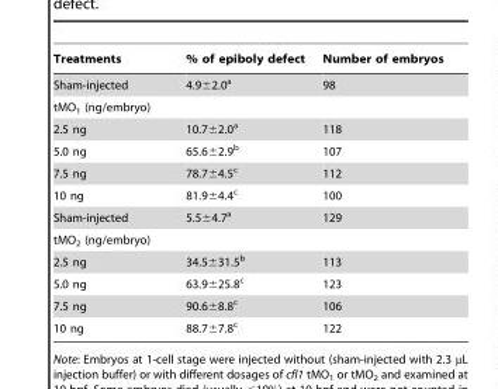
<table><thead><tr><td>Treatments</td><td>% of epiboly defect</td><td>Number of embryos</td></tr></thead><tbody><tr><td>Sham-injected</td><td>4.9±2.0<sup>a</sup></td><td>98</td></tr><tr><td colspan="3">tMO<sub>1</sub> (ng/embryo)</td></tr><tr><td>2.5 ng</td><td>10.7±2.0<sup>a</sup></td><td>118</td></tr><tr><td>5.0 ng</td><td>65.6±2.9<sup>b</sup></td><td>107</td></tr><tr><td>7.5 ng</td><td>78.7±4.5<sup>c</sup></td><td>112</td></tr><tr><td>10 ng</td><td>81.9±4.4<sup>c</sup></td><td>100</td></tr><tr><td>Sham-injected</td><td>5.5±4.7<sup>a</sup></td><td>129</td></tr><tr><td colspan="3">tMO<sub>2</sub> (ng/embryo)</td></tr><tr><td>2.5 ng</td><td>34.5±31.5<sup>b</sup></td><td>113</td></tr><tr><td>5.0 ng</td><td>63.9±25.8<sup>c</sup></td><td>123</td></tr><tr><td>7.5 ng</td><td>90.6±8.8<sup>c</sup></td><td>106</td></tr><tr><td>10 ng</td><td>88.7±7.8<sup>c</sup></td><td>122</td></tr></tbody></table>